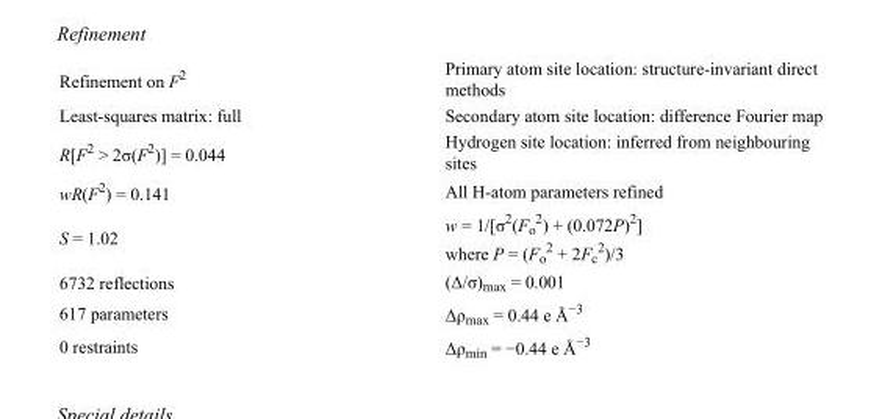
<table><tbody><tr><td>Refinement on F<sup>2</sup></td><td>Primary atom site location: structure-invariant direct methods</td></tr><tr><td>Least-squares matrix: full</td><td>Secondary atom site location: difference Fourier map</td></tr><tr><td>R[F<sup>2</sup> &gt; 2σ(F<sup>2</sup>)] = 0.044</td><td>Hydrogen site location: inferred from neighbouring sites</td></tr><tr><td>wR(F<sup>2</sup>) = 0.141</td><td>All H-atom parameters refined</td></tr><tr><td>S = 1.02</td><td>w = 1/[σ<sup>2</sup>(F<sub>o</sub> <sup>2</sup>) + (0.072P)<sup>2</sup>] where P = (F<sub>o</sub> <sup>2</sup> + 2F<sub>c</sub> <sup>2</sup>)/3</td></tr><tr><td>6732 reflections</td><td>(Δ/σ)<sub>max</sub> = 0.001</td></tr><tr><td>617 parameters</td><td>Δρ<sub>max</sub> = 0.44 e Å<sup>−3</sup></td></tr><tr><td>0 restraints</td><td>Δρ<sub>min</sub> = −0.44 e Å<sup>−3</sup></td></tr></tbody></table>